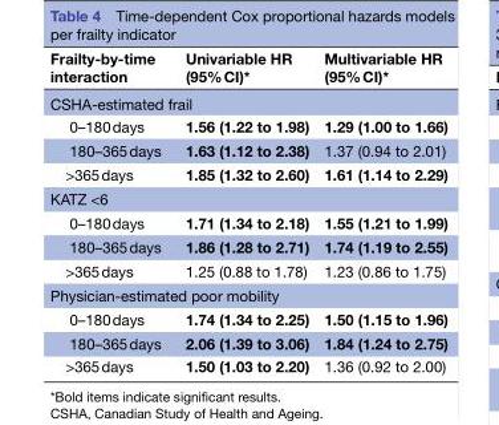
<table><thead><tr><td>Frailty-by-time interaction</td><td>Univariable HR (95% CI)*</td><td>Multivariable HR (95% CI)*</td></tr></thead><tbody><tr><td colspan="3">CSHA-estimated frail</td></tr><tr><td>0–180 days</td><td>1.56 (1.22 to 1.98)</td><td>1.29 (1.00 to 1.66)</td></tr><tr><td>180–365 days</td><td>1.63 (1.12 to 2.38)</td><td>1.37 (0.94 to 2.01)</td></tr><tr><td>&gt;365 days</td><td>1.85 (1.32 to 2.60)</td><td>1.61 (1.14 to 2.29)</td></tr><tr><td colspan="3">KATZ &lt;6</td></tr><tr><td>0–180 days</td><td>1.71 (1.34 to 2.18)</td><td>1.55 (1.21 to 1.99)</td></tr><tr><td>180–365 days</td><td>1.86 (1.28 to 2.71)</td><td>1.74 (1.19 to 2.55)</td></tr><tr><td>&gt;365 days</td><td>1.25 (0.88 to 1.78)</td><td>1.23 (0.86 to 1.75)</td></tr><tr><td colspan="3">Physician-estimated poor mobility</td></tr><tr><td>0–180 days</td><td>1.74 (1.34 to 2.25)</td><td>1.50 (1.15 to 1.96)</td></tr><tr><td>180–365 days</td><td>2.06 (1.39 to 3.06)</td><td>1.84 (1.24 to 2.75)</td></tr><tr><td>&gt;365 days</td><td>1.50 (1.03 to 2.20)</td><td>1.36 (0.92 to 2.00)</td></tr></tbody></table>